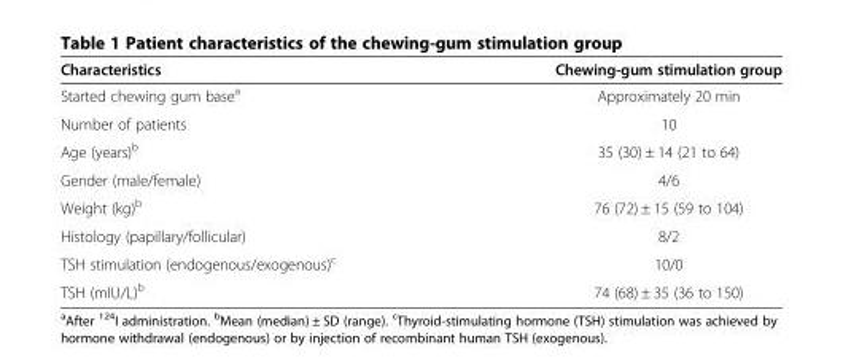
<table><thead><tr><td>Characteristics</td><td>Chewing-gum stimulation group</td></tr></thead><tbody><tr><td>Started chewing gum base<sup>a</sup></td><td>Approximately 20 min</td></tr><tr><td>Number of patients</td><td>10</td></tr><tr><td>Age (years)<sup>b</sup></td><td>35 (30) ± 14 (21 to 64)</td></tr><tr><td>Gender (male/female)</td><td>4/6</td></tr><tr><td>Weight (kg)<sup>b</sup></td><td>76 (72) ± 15 (59 to 104)</td></tr><tr><td>Histology (papillary/follicular)</td><td>8/2</td></tr><tr><td>TSH stimulation (endogenous/exogenous)<sup>c</sup></td><td>10/0</td></tr><tr><td>TSH (mIU/L)<sup>b</sup></td><td>74 (68) ± 35 (36 to 150)</td></tr></tbody></table>